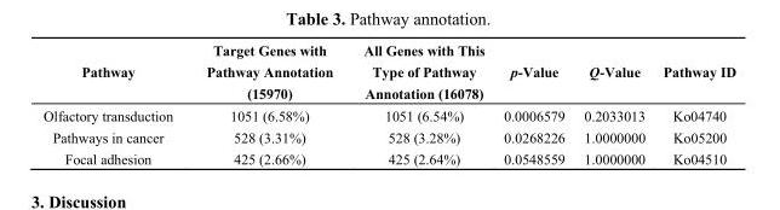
<table><thead><tr><td>Pathway</td><td>Target Genes with Pathway Annotation (15970)</td><td>All Genes with This Type of Pathway Annotation (16078)</td><td>p-Value</td><td>Q-Value</td><td>Pathway ID</td></tr></thead><tbody><tr><td>Olfactory transduction</td><td>1051 (6.58%)</td><td>1051 (6.54%)</td><td>0.0006579</td><td>0.2033013</td><td>Ko04740</td></tr><tr><td>Pathways in cancer</td><td>528 (3.31%)</td><td>528 (3.28%)</td><td>0.0268226</td><td>1.0000000</td><td>Ko05200</td></tr><tr><td>Focal adhesion</td><td>425 (2.66%)</td><td>425 (2.64%)</td><td>0.0548559</td><td>1.0000000</td><td>Ko04510</td></tr></tbody></table>